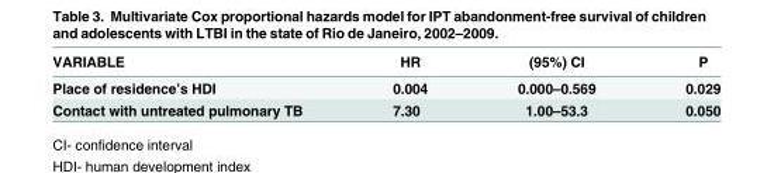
<table><thead><tr><td>VARIABLE</td><td>HR</td><td>(95%) CI</td><td>P</td></tr></thead><tbody><tr><td>Place of residence’s HDI</td><td>0.004</td><td>0.000–0.569</td><td>0.029</td></tr><tr><td>Contact with untreated pulmonary TB</td><td>7.30</td><td>1.00–53.3</td><td>0.050</td></tr></tbody></table>